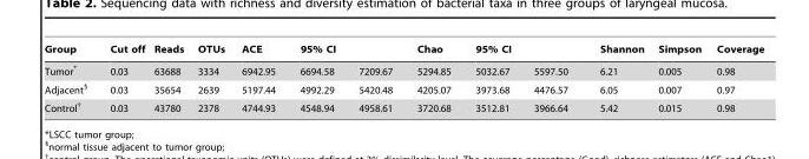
<table><thead><tr><td rowspan="2">Group Tumor*</td><td rowspan="2">Cut off 0.03</td><td rowspan="2">Reads 63688</td><td rowspan="2">OTUs 3334</td><td rowspan="2">ACE 6942.95</td><td colspan="2">95% CI</td><td rowspan="2">Chao 5294.85</td><td colspan="2">95% CI</td><td rowspan="2">Shannon 6.21</td><td rowspan="2">Simpson 0.005</td><td rowspan="2">Coverage 0.98</td></tr><tr><td>6694.58</td><td>7209.67</td><td>5032.67</td><td>5597.50</td></tr></thead><tbody><tr><td>Adjacent§</td><td>0.03</td><td>35654</td><td>2639</td><td>5197.44</td><td>4992.29</td><td>5420.48</td><td>4205.07</td><td>3973.68</td><td>4476.57</td><td>6.05</td><td>0.007</td><td>0.97</td></tr><tr><td>Control†</td><td>0.03</td><td>43780</td><td>2378</td><td>4744.93</td><td>4548.94</td><td>4958.61</td><td>3720.68</td><td>3512.81</td><td>3966.64</td><td>5.42</td><td>0.015</td><td>0.98</td></tr></tbody></table>